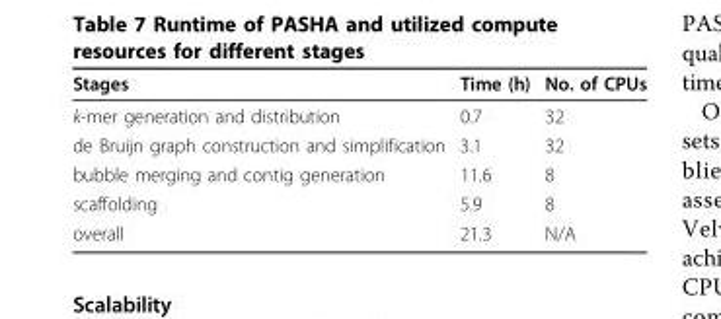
<table><thead><tr><td>Stages</td><td>Time (h)</td><td>No. of CPUs</td></tr></thead><tbody><tr><td>k-mer generation and distribution</td><td>0.7</td><td>32</td></tr><tr><td>de Bruijn graph construction and simplification</td><td>3.1</td><td>32</td></tr><tr><td>bubble merging and contig generation</td><td>11.6</td><td>8</td></tr><tr><td>scaffolding</td><td>5.9</td><td>8</td></tr><tr><td>overall</td><td>21.3</td><td>N/A</td></tr></tbody></table>